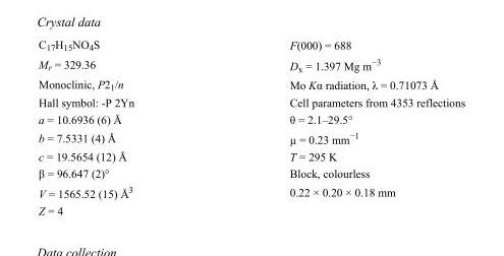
<table><tbody><tr><td>C<sub>17</sub>H<sub>15</sub>NO<sub>4</sub>S</td><td>F(000) = 688</td></tr><tr><td>M<sub>r</sub> = 329.36</td><td>D<sub>x</sub> = 1.397 Mg m<sup>−3</sup></td></tr><tr><td>Monoclinic, P2<sub>1</sub>/n</td><td>Mo Kα radiation, λ = 0.71073 Å</td></tr><tr><td>Hall symbol: -P 2Yn</td><td>Cell parameters from 4353 reflections</td></tr><tr><td>a = 10.6936 (6) Å</td><td>θ = 2.1–29.5°</td></tr><tr><td>b = 7.5331 (4) Å</td><td>µ = 0.23 mm<sup>−1</sup></td></tr><tr><td>c = 19.5654 (12) Å</td><td>T = 295 K</td></tr><tr><td>β = 96.647 (2)°</td><td>Block, colourless</td></tr><tr><td>V = 1565.52 (15) Å<sup>3</sup></td><td>0.22 × 0.20 × 0.18 mm</td></tr><tr><td>Z = 4</td><td></td></tr></tbody></table>